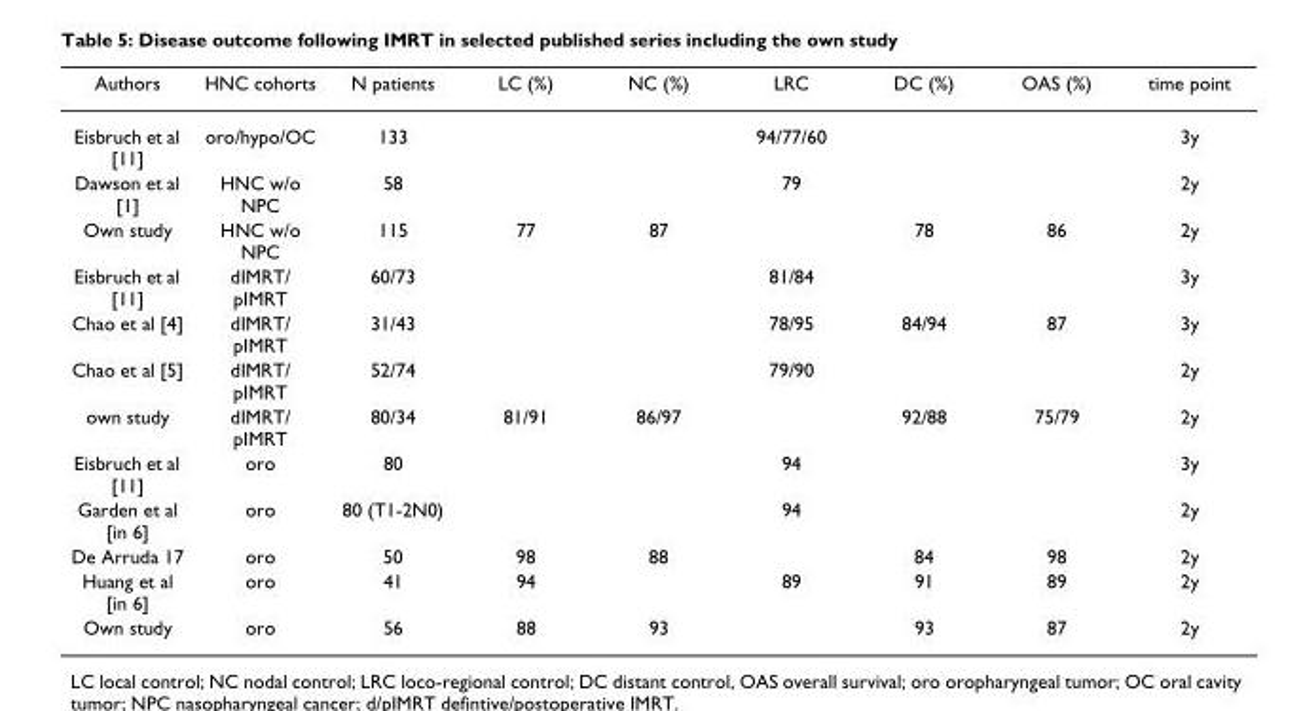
<table><thead><tr><td>Authors</td><td>HNC cohorts</td><td>N patients</td><td>LC (%)</td><td>NC (%)</td><td>LRC</td><td>DC (%)</td><td>OAS (%)</td><td>time point</td></tr></thead><tbody><tr><td>Eisbruch et al [11]</td><td>oro/hypo/OC</td><td>133</td><td></td><td></td><td>94/77/60</td><td></td><td></td><td>3y</td></tr><tr><td>Dawson et al [1]</td><td>HNC w/o NPC</td><td>58</td><td></td><td></td><td>79</td><td></td><td></td><td>2y</td></tr><tr><td>Own study</td><td>HNC w/o NPC</td><td>115</td><td>77</td><td>87</td><td></td><td>78</td><td>86</td><td>2y</td></tr><tr><td>Eisbruch et al [11]</td><td>dIMRT/ pIMRT</td><td>60/73</td><td></td><td></td><td>81/84</td><td></td><td></td><td>3y</td></tr><tr><td>Chao et al [4]</td><td>dIMRT/ pIMRT</td><td>31/43</td><td></td><td></td><td>78/95</td><td>84/94</td><td>87</td><td>3y</td></tr><tr><td>Chao et al [5]</td><td>dIMRT/ pIMRT</td><td>52/74</td><td></td><td></td><td>79/90</td><td></td><td></td><td>2y</td></tr><tr><td>own study</td><td>dIMRT/ pIMRT</td><td>80/34</td><td>81/91</td><td>86/97</td><td></td><td>92/88</td><td>75/79</td><td>2y</td></tr><tr><td>Eisbruch et al [11]</td><td>oro</td><td>80</td><td></td><td></td><td>94</td><td></td><td></td><td>3y</td></tr><tr><td>Garden et al [in 6]</td><td>oro</td><td>80 (T1-2N0)</td><td></td><td></td><td>94</td><td></td><td></td><td>2y</td></tr><tr><td>De Arruda 17</td><td>oro</td><td>50</td><td>98</td><td>88</td><td></td><td>84</td><td>98</td><td>2y</td></tr><tr><td>Huang et al [in 6]</td><td>oro</td><td>41</td><td>94</td><td></td><td>89</td><td>91</td><td>89</td><td>2y</td></tr><tr><td>Own study</td><td>oro</td><td>56</td><td>88</td><td>93</td><td></td><td>93</td><td>87</td><td>2y</td></tr></tbody></table>